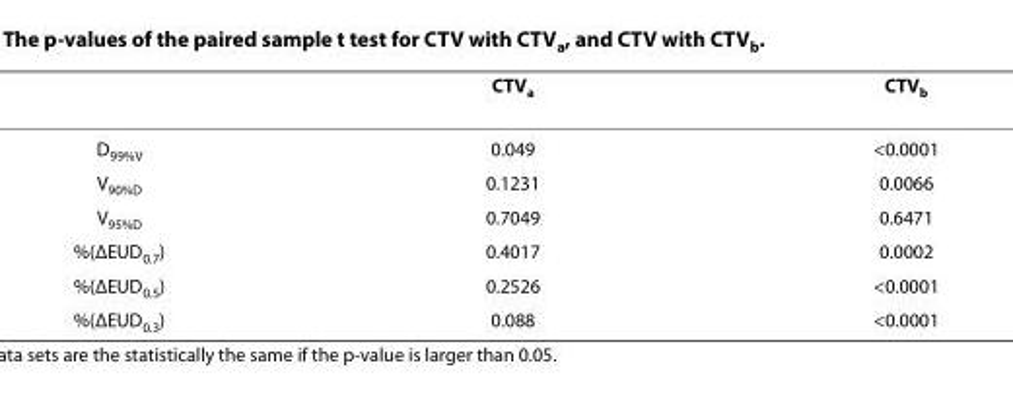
<table><thead><tr><td></td><td>CTV<sub>a</sub></td><td>CTV<sub>b</sub></td></tr></thead><tbody><tr><td>D<sub>99%V</sub></td><td>0.049</td><td>&lt;0.0001</td></tr><tr><td>V<sub>90%D</sub></td><td>0.1231</td><td>0.0066</td></tr><tr><td>V<sub>95%D</sub></td><td>0.7049</td><td>0.6471</td></tr><tr><td>%(ΔEUD<sub>0.7</sub>)</td><td>0.4017</td><td>0.0002</td></tr><tr><td>%(ΔEUD<sub>0.5</sub>)</td><td>0.2526</td><td>&lt;0.0001</td></tr><tr><td>%(ΔEUD<sub>0.3</sub>)</td><td>0.088</td><td>&lt;0.0001</td></tr></tbody></table>